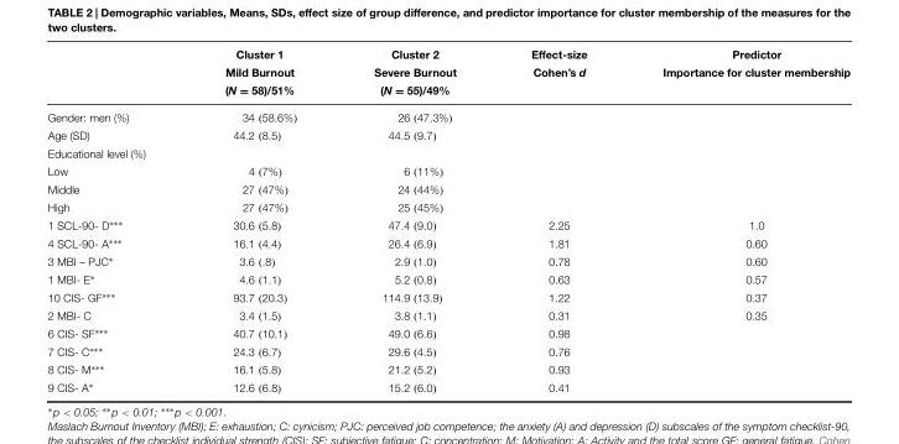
<table><thead><tr><td rowspan="3"></td><td rowspan="3">Cluster 1 Mild Burnout (N = 58)/51%</td><td rowspan="3">Cluster 2 Severe Burnout (N = 55)/49%</td><td rowspan="3">Effect-size Cohen’s d</td><td rowspan="3">Predictor Importance for cluster membership</td></tr><tr></tr><tr></tr></thead><tbody><tr><td>Gender: men (%)</td><td>34 (58.6%)</td><td>26 (47.3%)</td><td></td><td></td></tr><tr><td>Age (SD)</td><td>44.2 (8.5)</td><td>44.5 (9.7)</td><td></td><td></td></tr><tr><td colspan="5">Educational level (%)</td></tr><tr><td>Low</td><td>4 (7%)</td><td>6 (11%)</td><td></td><td></td></tr><tr><td>Middle</td><td>27 (47%)</td><td>24 (44%)</td><td></td><td></td></tr><tr><td>High</td><td>27 (47%)</td><td>25 (45%)</td><td></td><td></td></tr><tr><td>1 SCL-90- D∗∗∗</td><td>30.6 (5.8)</td><td>47.4 (9.0)</td><td>2.25</td><td>1.0</td></tr><tr><td>4 SCL-90- A∗∗∗</td><td>16.1 (4.4)</td><td>26.4 (6.9)</td><td>1.81</td><td>0.60</td></tr><tr><td>3 MBI – PJC∗</td><td>3.6 (.8)</td><td>2.9 (1.0)</td><td>0.78</td><td>0.60</td></tr><tr><td>1 MBI- E∗</td><td>4.6 (1.1)</td><td>5.2 (0.8)</td><td>0.63</td><td>0.57</td></tr><tr><td>10 CIS- GF∗∗∗</td><td>93.7 (20.3)</td><td>114.9 (13.9)</td><td>1.22</td><td>0.37</td></tr><tr><td>2 MBI- C</td><td>3.4 (1.5)</td><td>3.8 (1.1)</td><td>0.31</td><td>0.35</td></tr><tr><td>6 CIS- SF∗∗∗</td><td>40.7 (10.1)</td><td>49.0 (6.6)</td><td>0.98</td><td></td></tr><tr><td>7 CIS- C∗∗∗</td><td>24.3 (6.7)</td><td>29.6 (4.5)</td><td>0.76</td><td></td></tr><tr><td>8 CIS- M∗∗∗</td><td>16.1 (5.8)</td><td>21.2 (5.2)</td><td>0.93</td><td></td></tr><tr><td>9 CIS- A∗</td><td>12.6 (6.8)</td><td>15.2 (6.0)</td><td>0.41</td><td></td></tr></tbody></table>